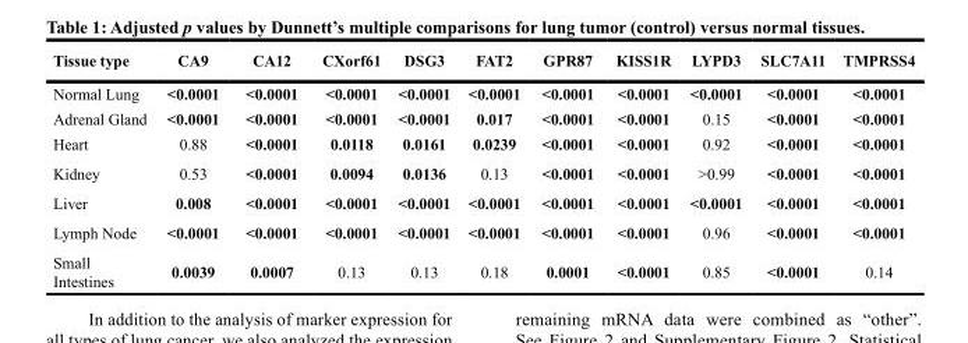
<table><thead><tr><td>Tissue type</td><td>CA9</td><td>CA12</td><td>CXorf61</td><td>DSG3</td><td>FAT2</td><td>GPR87</td><td>KISS1R</td><td>LYPD3</td><td>SLC7A11</td><td>TMPRSS4</td></tr></thead><tbody><tr><td>Normal Lung</td><td>&lt;0.0001</td><td>&lt;0.0001</td><td>&lt;0.0001</td><td>&lt;0.0001</td><td>&lt;0.0001</td><td>&lt;0.0001</td><td>&lt;0.0001</td><td>&lt;0.0001</td><td>&lt;0.0001</td><td>&lt;0.0001</td></tr><tr><td>Adrenal Gland</td><td>&lt;0.0001</td><td>&lt;0.0001</td><td>&lt;0.0001</td><td>&lt;0.0001</td><td>0.017</td><td>&lt;0.0001</td><td>&lt;0.0001</td><td>0.15</td><td>&lt;0.0001</td><td>&lt;0.0001</td></tr><tr><td>Heart</td><td>0.88</td><td>&lt;0.0001</td><td>0.0118</td><td>0.0161</td><td>0.0239</td><td>&lt;0.0001</td><td>&lt;0.0001</td><td>0.92</td><td>&lt;0.0001</td><td>&lt;0.0001</td></tr><tr><td>Kidney</td><td>0.53</td><td>&lt;0.0001</td><td>0.0094</td><td>0.0136</td><td>0.13</td><td>&lt;0.0001</td><td>&lt;0.0001</td><td>&gt;0.99</td><td>&lt;0.0001</td><td>&lt;0.0001</td></tr><tr><td>Liver</td><td>0.008</td><td>&lt;0.0001</td><td>&lt;0.0001</td><td>&lt;0.0001</td><td>&lt;0.0001</td><td>&lt;0.0001</td><td>&lt;0.0001</td><td>&lt;0.0001</td><td>&lt;0.0001</td><td>&lt;0.0001</td></tr><tr><td>Lymph Node</td><td>&lt;0.0001</td><td>&lt;0.0001</td><td>&lt;0.0001</td><td>&lt;0.0001</td><td>&lt;0.0001</td><td>&lt;0.0001</td><td>&lt;0.0001</td><td>0.96</td><td>&lt;0.0001</td><td>&lt;0.0001</td></tr><tr><td>Small Intestines</td><td>0.0039</td><td>0.0007</td><td>0.13</td><td>0.13</td><td>0.18</td><td>0.0001</td><td>&lt;0.0001</td><td>0.85</td><td>&lt;0.0001</td><td>0.14</td></tr></tbody></table>